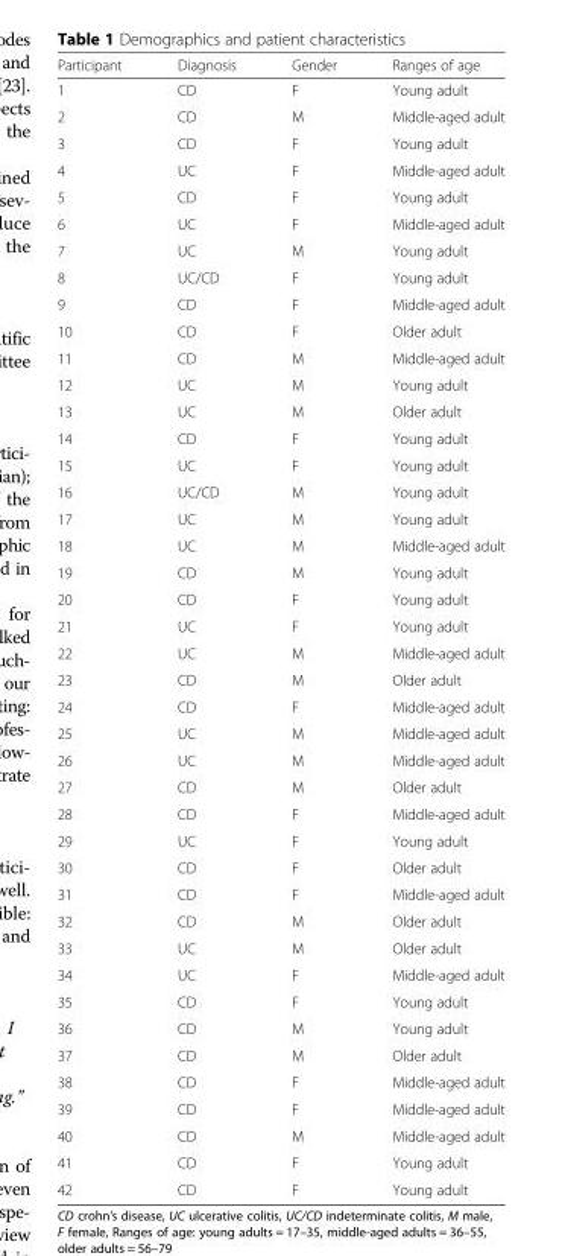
<table><thead><tr><td>Participant</td><td>Diagnosis</td><td>Gender</td><td>Ranges of age</td></tr></thead><tbody><tr><td>1</td><td>CD</td><td>F</td><td>Young adult</td></tr><tr><td>2</td><td>CD</td><td>M</td><td>Middle-aged adult</td></tr><tr><td>3</td><td>CD</td><td>F</td><td>Young adult</td></tr><tr><td>4</td><td>UC</td><td>F</td><td>Middle-aged adult</td></tr><tr><td>5</td><td>CD</td><td>F</td><td>Young adult</td></tr><tr><td>6</td><td>UC</td><td>F</td><td>Middle-aged adult</td></tr><tr><td>7</td><td>UC</td><td>M</td><td>Young adult</td></tr><tr><td>8</td><td>UC/CD</td><td>F</td><td>Young adult</td></tr><tr><td>9</td><td>CD</td><td>F</td><td>Middle-aged adult</td></tr><tr><td>10</td><td>CD</td><td>F</td><td>Older adult</td></tr><tr><td>11</td><td>CD</td><td>M</td><td>Middle-aged adult</td></tr><tr><td>12</td><td>UC</td><td>M</td><td>Young adult</td></tr><tr><td>13</td><td>UC</td><td>M</td><td>Older adult</td></tr><tr><td>14</td><td>CD</td><td>F</td><td>Young adult</td></tr><tr><td>15</td><td>UC</td><td>F</td><td>Young adult</td></tr><tr><td>16</td><td>UC/CD</td><td>M</td><td>Young adult</td></tr><tr><td>17</td><td>UC</td><td>M</td><td>Young adult</td></tr><tr><td>18</td><td>UC</td><td>M</td><td>Middle-aged adult</td></tr><tr><td>19</td><td>CD</td><td>M</td><td>Young adult</td></tr><tr><td>20</td><td>CD</td><td>F</td><td>Young adult</td></tr><tr><td>21</td><td>UC</td><td>F</td><td>Young adult</td></tr><tr><td>22</td><td>UC</td><td>M</td><td>Middle-aged adult</td></tr><tr><td>23</td><td>CD</td><td>M</td><td>Older adult</td></tr><tr><td>24</td><td>CD</td><td>F</td><td>Middle-aged adult</td></tr><tr><td>25</td><td>UC</td><td>M</td><td>Middle-aged adult</td></tr><tr><td>26</td><td>UC</td><td>M</td><td>Middle-aged adult</td></tr><tr><td>27</td><td>CD</td><td>M</td><td>Older adult</td></tr><tr><td>28</td><td>CD</td><td>F</td><td>Middle-aged adult</td></tr><tr><td>29</td><td>UC</td><td>F</td><td>Young adult</td></tr><tr><td>30</td><td>CD</td><td>F</td><td>Older adult</td></tr><tr><td>31</td><td>CD</td><td>F</td><td>Middle-aged adult</td></tr><tr><td>32</td><td>CD</td><td>M</td><td>Older adult</td></tr><tr><td>33</td><td>UC</td><td>M</td><td>Older adult</td></tr><tr><td>34</td><td>UC</td><td>F</td><td>Middle-aged adult</td></tr><tr><td>35</td><td>CD</td><td>F</td><td>Young adult</td></tr><tr><td>36</td><td>CD</td><td>M</td><td>Young adult</td></tr><tr><td>37</td><td>CD</td><td>M</td><td>Older adult</td></tr><tr><td>38</td><td>CD</td><td>F</td><td>Middle-aged adult</td></tr><tr><td>39</td><td>CD</td><td>F</td><td>Middle-aged adult</td></tr><tr><td>40</td><td>CD</td><td>M</td><td>Middle-aged adult</td></tr><tr><td>41</td><td>CD</td><td>F</td><td>Young adult</td></tr><tr><td>42</td><td>CD</td><td>F</td><td>Young adult</td></tr></tbody></table>